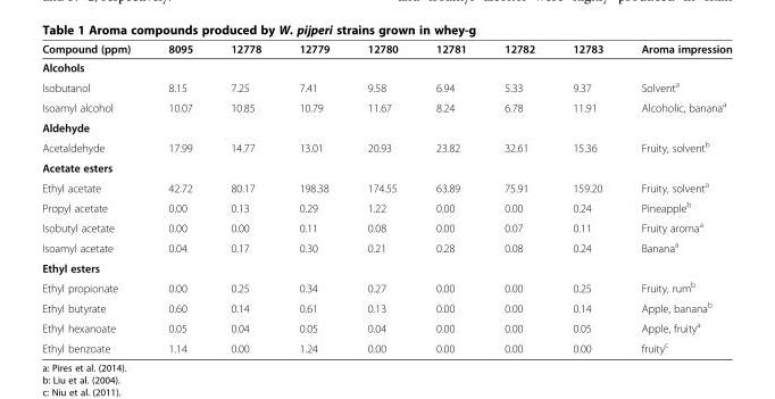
<table><thead><tr><td>Compound (ppm)</td><td>8095</td><td>12778</td><td>12779</td><td>12780</td><td>12781</td><td>12782</td><td>12783</td><td>Aroma impression</td></tr></thead><tbody><tr><td colspan="9">Alcohols</td></tr><tr><td>Isobutanol</td><td>8.15</td><td>7.25</td><td>7.41</td><td>9.58</td><td>6.94</td><td>5.33</td><td>9.37</td><td>Solvent<sup>a</sup></td></tr><tr><td>Isoamyl alcohol</td><td>10.07</td><td>10.85</td><td>10.79</td><td>11.67</td><td>8.24</td><td>6.78</td><td>11.91</td><td>Alcoholic, banana<sup>a</sup></td></tr><tr><td colspan="9">Aldehyde</td></tr><tr><td>Acetaldehyde</td><td>17.99</td><td>14.77</td><td>13.01</td><td>20.93</td><td>23.82</td><td>32.61</td><td>15.36</td><td>Fruity, solvent<sup>b</sup></td></tr><tr><td colspan="9">Acetate esters</td></tr><tr><td>Ethyl acetate</td><td>42.72</td><td>80.17</td><td>198.38</td><td>174.55</td><td>63.89</td><td>75.91</td><td>159.20</td><td>Fruity, solvent<sup>a</sup></td></tr><tr><td>Propyl acetate</td><td>0.00</td><td>0.13</td><td>0.29</td><td>1.22</td><td>0.00</td><td>0.00</td><td>0.24</td><td>Pineapple<sup>b</sup></td></tr><tr><td>Isobutyl acetate</td><td>0.00</td><td>0.00</td><td>0.11</td><td>0.08</td><td>0.00</td><td>0.07</td><td>0.11</td><td>Fruity aroma<sup>a</sup></td></tr><tr><td>Isoamyl acetate</td><td>0.04</td><td>0.17</td><td>0.30</td><td>0.21</td><td>0.28</td><td>0.08</td><td>0.24</td><td>Banana<sup>a</sup></td></tr><tr><td colspan="9">Ethyl esters</td></tr><tr><td>Ethyl propionate</td><td>0.00</td><td>0.25</td><td>0.34</td><td>0.27</td><td>0.00</td><td>0.00</td><td>0.25</td><td>Fruity, rum<sup>b</sup></td></tr><tr><td>Ethyl butyrate</td><td>0.60</td><td>0.14</td><td>0.61</td><td>0.13</td><td>0.00</td><td>0.00</td><td>0.14</td><td>Apple, banana<sup>b</sup></td></tr><tr><td>Ethyl hexanoate</td><td>0.05</td><td>0.04</td><td>0.05</td><td>0.04</td><td>0.00</td><td>0.00</td><td>0.05</td><td>Apple, fruity<sup>a</sup></td></tr><tr><td>Ethyl benzoate</td><td>1.14</td><td>0.00</td><td>1.24</td><td>0.00</td><td>0.00</td><td>0.00</td><td>0.00</td><td>fruity<sup>c</sup></td></tr></tbody></table>